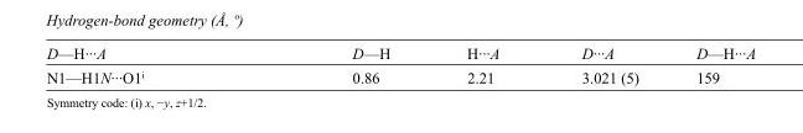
<table><tbody><tr><td>D—H···A</td><td>D—H</td><td>H···A</td><td>D···A</td><td>D—H···A</td></tr><tr><td>N1—H1N···O1<sup>i</sup></td><td>0.86</td><td>2.21</td><td>3.021 (5)</td><td>159</td></tr></tbody></table>